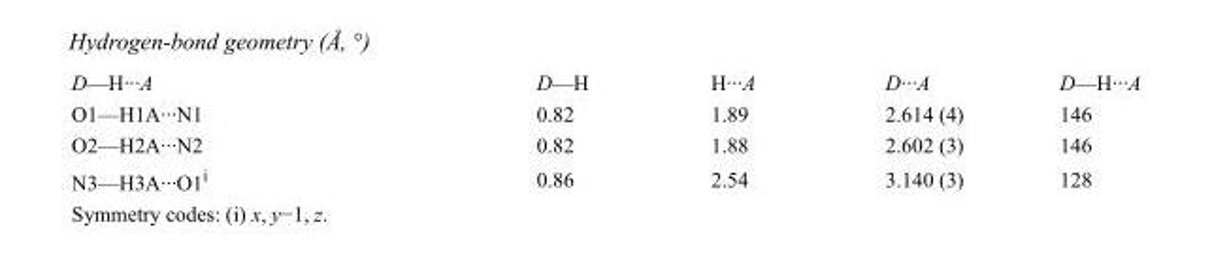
<table><tbody><tr><td>D—H···A</td><td>D—H</td><td>H···A</td><td>D···A</td><td>D—H···A</td></tr><tr><td>O1—H1A···N1</td><td>0.82</td><td>1.89</td><td>2.614 (4)</td><td>146</td></tr><tr><td>O2—H2A···N2</td><td>0.82</td><td>1.88</td><td>2.602 (3)</td><td>146</td></tr><tr><td>N3—H3A···O1<sup>i</sup></td><td>0.86</td><td>2.54</td><td>3.140 (3)</td><td>128</td></tr></tbody></table>